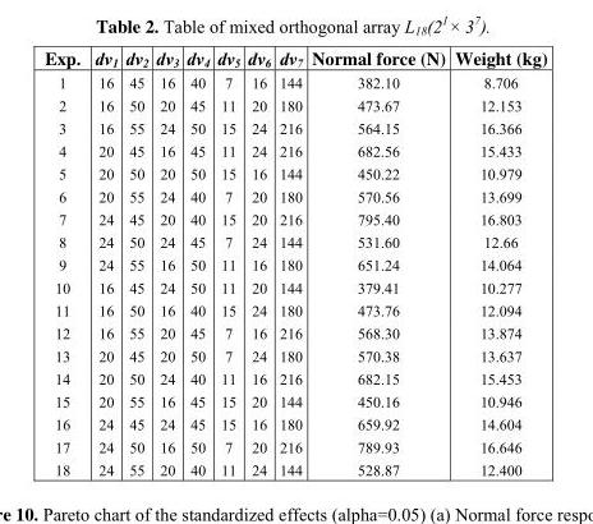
<table><thead><tr><td>Exp.</td><td>dv<sub>1</sub></td><td>dv<sub>2</sub></td><td>dv<sub>3</sub></td><td>dv<sub>4</sub></td><td>dv<sub>5</sub></td><td>dv<sub>6</sub></td><td>dv<sub>7</sub></td><td>Normal force (N)</td><td>Weight (kg)</td></tr></thead><tbody><tr><td>1</td><td>16</td><td>45</td><td>16</td><td>40</td><td>7</td><td>16</td><td>144</td><td>382.10</td><td>8.706</td></tr><tr><td>2</td><td>16</td><td>50</td><td>20</td><td>45</td><td>11</td><td>20</td><td>180</td><td>473.67</td><td>12.153</td></tr><tr><td>3</td><td>16</td><td>55</td><td>24</td><td>50</td><td>15</td><td>24</td><td>216</td><td>564.15</td><td>16.366</td></tr><tr><td>4</td><td>20</td><td>45</td><td>16</td><td>45</td><td>11</td><td>24</td><td>216</td><td>682.56</td><td>15.433</td></tr><tr><td>5</td><td>20</td><td>50</td><td>20</td><td>50</td><td>15</td><td>16</td><td>144</td><td>450.22</td><td>10.979</td></tr><tr><td>6</td><td>20</td><td>55</td><td>24</td><td>40</td><td>7</td><td>20</td><td>180</td><td>570.56</td><td>13.699</td></tr><tr><td>7</td><td>24</td><td>45</td><td>20</td><td>40</td><td>15</td><td>20</td><td>216</td><td>795.40</td><td>16.803</td></tr><tr><td>8</td><td>24</td><td>50</td><td>24</td><td>45</td><td>7</td><td>24</td><td>144</td><td>531.60</td><td>12.66</td></tr><tr><td>9</td><td>24</td><td>55</td><td>16</td><td>50</td><td>11</td><td>16</td><td>180</td><td>651.24</td><td>14.064</td></tr><tr><td>10</td><td>16</td><td>45</td><td>24</td><td>50</td><td>11</td><td>20</td><td>144</td><td>379.41</td><td>10.277</td></tr><tr><td>11</td><td>16</td><td>50</td><td>16</td><td>40</td><td>15</td><td>24</td><td>180</td><td>473.76</td><td>12.094</td></tr><tr><td>12</td><td>16</td><td>55</td><td>20</td><td>45</td><td>7</td><td>16</td><td>216</td><td>568.30</td><td>13.874</td></tr><tr><td>13</td><td>20</td><td>45</td><td>20</td><td>50</td><td>7</td><td>24</td><td>180</td><td>570.38</td><td>13.637</td></tr><tr><td>14</td><td>20</td><td>50</td><td>24</td><td>40</td><td>11</td><td>16</td><td>216</td><td>682.15</td><td>15.453</td></tr><tr><td>15</td><td>20</td><td>55</td><td>16</td><td>45</td><td>15</td><td>20</td><td>144</td><td>450.16</td><td>10.946</td></tr><tr><td>16</td><td>24</td><td>45</td><td>24</td><td>45</td><td>15</td><td>16</td><td>180</td><td>659.92</td><td>14.604</td></tr><tr><td>17</td><td>24</td><td>50</td><td>16</td><td>50</td><td>7</td><td>20</td><td>216</td><td>789.93</td><td>16.646</td></tr><tr><td>18</td><td>24</td><td>55</td><td>20</td><td>40</td><td>11</td><td>24</td><td>144</td><td>528.87</td><td>12.400</td></tr></tbody></table>